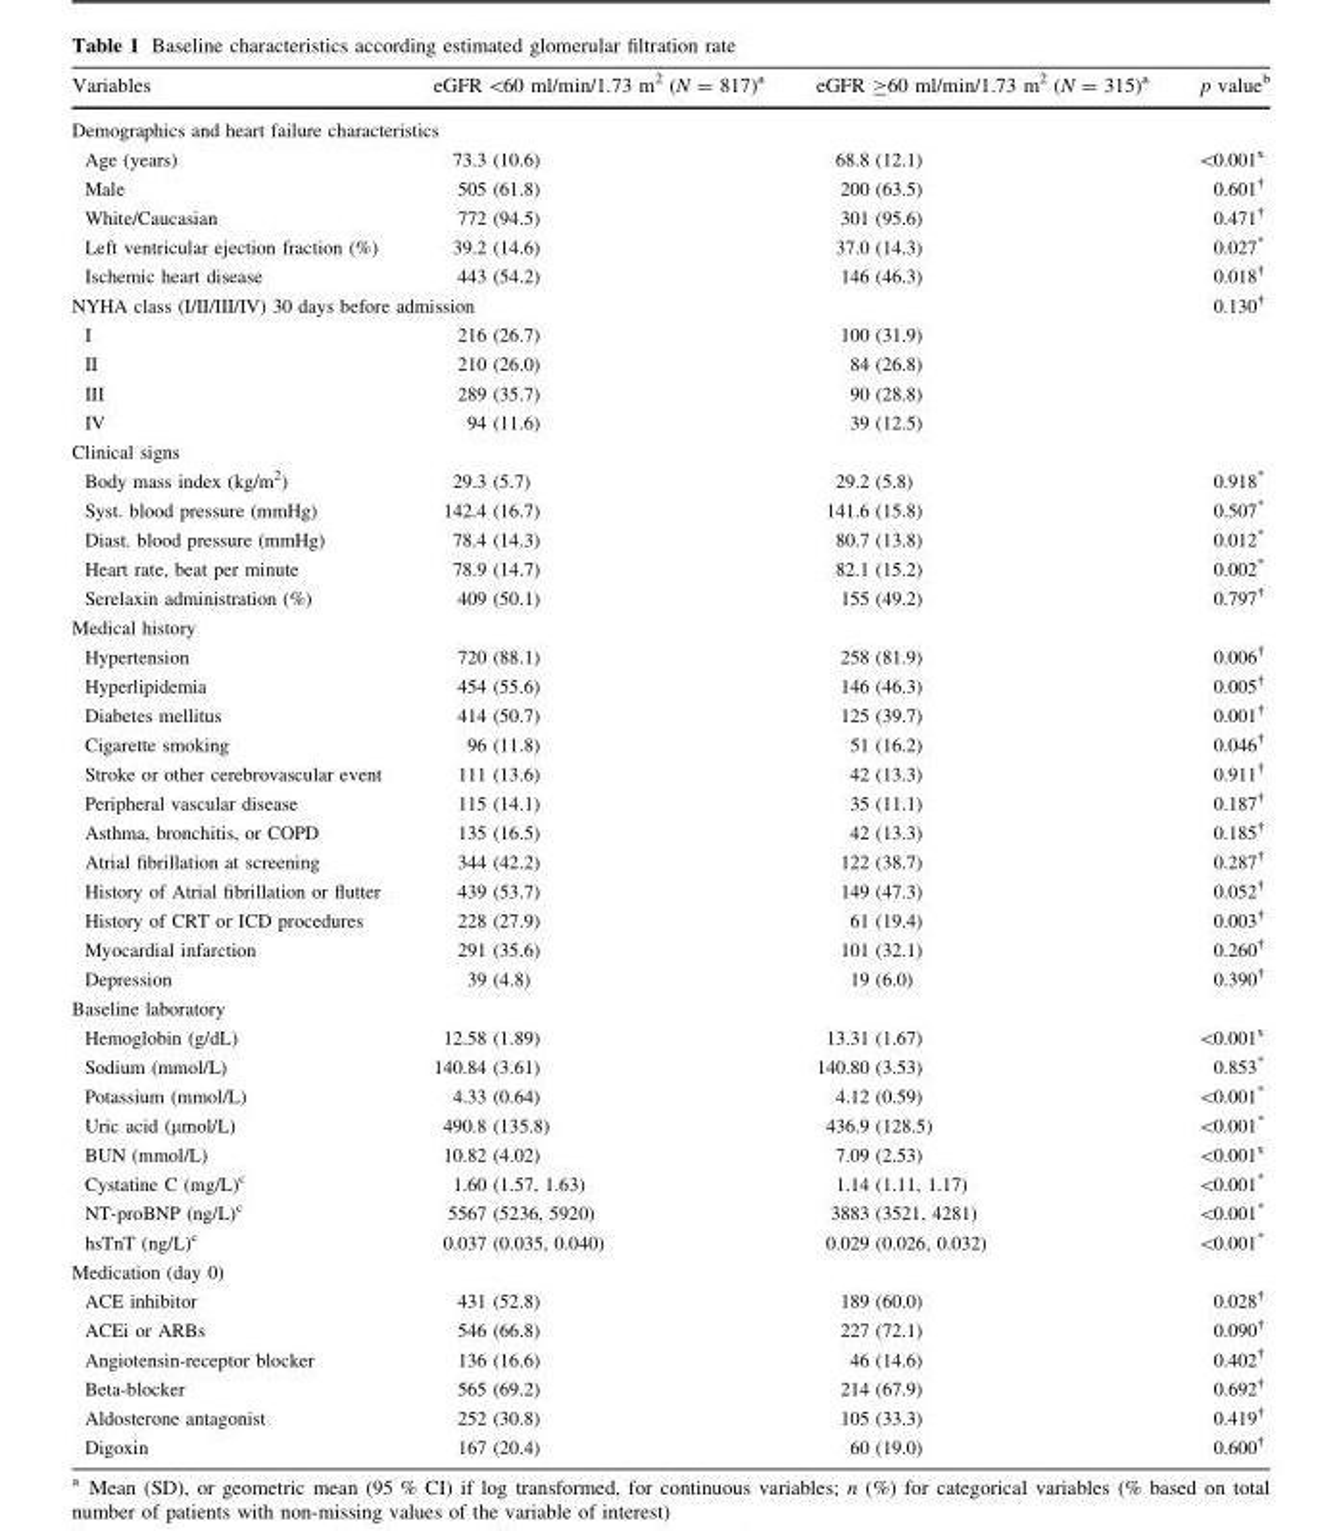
<table><thead><tr><td>Variables</td><td>eGFR &lt;60 ml/min/1.73 m<sup>2</sup> (N = 817)<sup>a</sup></td><td>eGFR ≥60 ml/min/1.73 m<sup>2</sup> (N = 315)<sup>a</sup></td><td>p value<sup>b</sup></td></tr></thead><tbody><tr><td colspan="4">Demographics and heart failure characteristics</td></tr><tr><td>Age (years)</td><td>73.3 (10.6)</td><td>68.8 (12.1)</td><td>&lt;0.001<sup>x</sup></td></tr><tr><td>Male</td><td>505 (61.8)</td><td>200 (63.5)</td><td>0.601<sup>†</sup></td></tr><tr><td>White/Caucasian</td><td>772 (94.5)</td><td>301 (95.6)</td><td>0.471<sup>†</sup></td></tr><tr><td>Left ventricular ejection fraction (%)</td><td>39.2 (14.6)</td><td>37.0 (14.3)</td><td>0.027*</td></tr><tr><td>Ischemic heart disease</td><td>443 (54.2)</td><td>146 (46.3)</td><td>0.018<sup>†</sup></td></tr><tr><td colspan="3">NYHA class (I/II/III/IV) 30 days before admission</td><td>0.130<sup>†</sup></td></tr><tr><td>I</td><td>216 (26.7)</td><td>100 (31.9)</td><td></td></tr><tr><td>II</td><td>210 (26.0)</td><td>84 (26.8)</td><td></td></tr><tr><td>III</td><td>289 (35.7)</td><td>90 (28.8)</td><td></td></tr><tr><td>IV</td><td>94 (11.6)</td><td>39 (12.5)</td><td></td></tr><tr><td colspan="4">Clinical signs</td></tr><tr><td>Body mass index (kg/m<sup>2</sup>)</td><td>29.3 (5.7)</td><td>29.2 (5.8)</td><td>0.918*</td></tr><tr><td>Syst. blood pressure (mmHg)</td><td>142.4 (16.7)</td><td>141.6 (15.8)</td><td>0.507*</td></tr><tr><td>Diast. blood pressure (mmHg)</td><td>78.4 (14.3)</td><td>80.7 (13.8)</td><td>0.012*</td></tr><tr><td>Heart rate, beat per minute</td><td>78.9 (14.7)</td><td>82.1 (15.2)</td><td>0.002*</td></tr><tr><td>Serelaxin administration (%)</td><td>409 (50.1)</td><td>155 (49.2)</td><td>0.797<sup>†</sup></td></tr><tr><td colspan="4">Medical history</td></tr><tr><td>Hypertension</td><td>720 (88.1)</td><td>258 (81.9)</td><td>0.006<sup>†</sup></td></tr><tr><td>Hyperlipidemia</td><td>454 (55.6)</td><td>146 (46.3)</td><td>0.005<sup>†</sup></td></tr><tr><td>Diabetes mellitus</td><td>414 (50.7)</td><td>125 (39.7)</td><td>0.001<sup>†</sup></td></tr><tr><td>Cigarette smoking</td><td>96 (11.8)</td><td>51 (16.2)</td><td>0.046<sup>†</sup></td></tr><tr><td>Stroke or other cerebrovascular event</td><td>111 (13.6)</td><td>42 (13.3)</td><td>0.911<sup>†</sup></td></tr><tr><td>Peripheral vascular disease</td><td>115 (14.1)</td><td>35 (11.1)</td><td>0.187<sup>†</sup></td></tr><tr><td>Asthma, bronchitis, or COPD</td><td>135 (16.5)</td><td>42 (13.3)</td><td>0.185<sup>†</sup></td></tr><tr><td>Atrial fibrillation at screening</td><td>344 (42.2)</td><td>122 (38.7)</td><td>0.287<sup>†</sup></td></tr><tr><td>History of Atrial fibrillation or flutter</td><td>439 (53.7)</td><td>149 (47.3)</td><td>0.052<sup>†</sup></td></tr><tr><td>History of CRT or ICD procedures</td><td>228 (27.9)</td><td>61 (19.4)</td><td>0.003<sup>†</sup></td></tr><tr><td>Myocardial infarction</td><td>291 (35.6)</td><td>101 (32.1)</td><td>0.260<sup>†</sup></td></tr><tr><td>Depression</td><td>39 (4.8)</td><td>19 (6.0)</td><td>0.390<sup>†</sup></td></tr><tr><td colspan="4">Baseline laboratory</td></tr><tr><td>Hemoglobin (g/dL)</td><td>12.58 (1.89)</td><td>13.31 (1.67)</td><td>&lt;0.001<sup>x</sup></td></tr><tr><td>Sodium (mmol/L)</td><td>140.84 (3.61)</td><td>140.80 (3.53)</td><td>0.853*</td></tr><tr><td>Potassium (mmol/L)</td><td>4.33 (0.64)</td><td>4.12 (0.59)</td><td>&lt;0.001*</td></tr><tr><td>Uric acid (μmol/L)</td><td>490.8 (135.8)</td><td>436.9 (128.5)</td><td>&lt;0.001*</td></tr><tr><td>BUN (mmol/L)</td><td>10.82 (4.02)</td><td>7.09 (2.53)</td><td>&lt;0.001<sup>x</sup></td></tr><tr><td>Cystatine C (mg/L)<sup>c</sup></td><td>1.60 (1.57, 1.63)</td><td>1.14 (1.11, 1.17)</td><td>&lt;0.001*</td></tr><tr><td>NT-proBNP (ng/L)<sup>c</sup></td><td>5567 (5236, 5920)</td><td>3883 (3521, 4281)</td><td>&lt;0.001*</td></tr><tr><td>hsTnT (ng/L)<sup>c</sup></td><td>0.037 (0.035, 0.040)</td><td>0.029 (0.026, 0.032)</td><td>&lt;0.001*</td></tr><tr><td colspan="4">Medication (day 0)</td></tr><tr><td>ACE inhibitor</td><td>431 (52.8)</td><td>189 (60.0)</td><td>0.028<sup>†</sup></td></tr><tr><td>ACEi or ARBs</td><td>546 (66.8)</td><td>227 (72.1)</td><td>0.090<sup>†</sup></td></tr><tr><td>Angiotensin-receptor blocker</td><td>136 (16.6)</td><td>46 (14.6)</td><td>0.402<sup>†</sup></td></tr><tr><td>Beta-blocker</td><td>565 (69.2)</td><td>214 (67.9)</td><td>0.692<sup>†</sup></td></tr><tr><td>Aldosterone antagonist</td><td>252 (30.8)</td><td>105 (33.3)</td><td>0.419<sup>†</sup></td></tr><tr><td>Digoxin</td><td>167 (20.4)</td><td>60 (19.0)</td><td>0.600<sup>†</sup></td></tr></tbody></table>